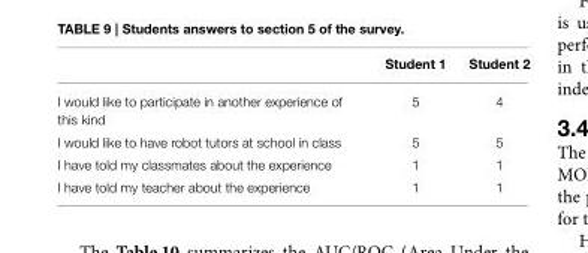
<table><thead><tr><td></td><td>Student 1</td><td>Student 2</td></tr></thead><tbody><tr><td>I would like to participate in another experience of this kind</td><td>5</td><td>4</td></tr><tr><td>I would like to have robot tutors at school in class</td><td>5</td><td>5</td></tr><tr><td>I have told my classmates about the experience</td><td>1</td><td>1</td></tr><tr><td>I have told my teacher about the experience</td><td>1</td><td>1</td></tr></tbody></table>